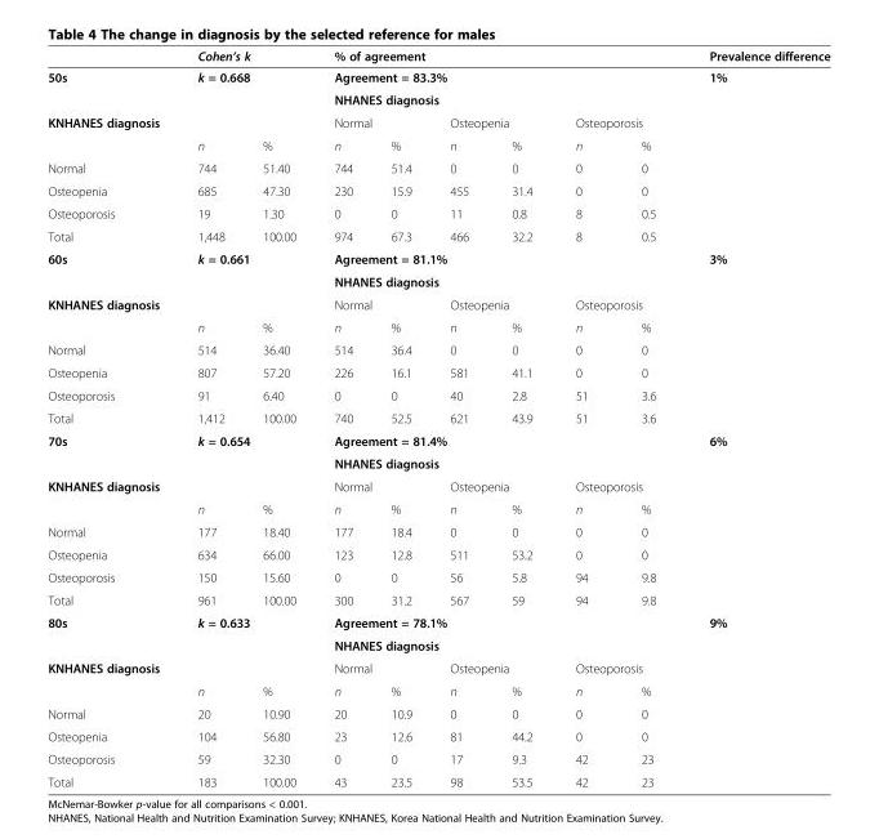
<table><thead><tr><td></td><td colspan="2">Cohen’s k</td><td colspan="6">% of agreement</td><td>Prevalence difference</td></tr></thead><tbody><tr><td rowspan="2">50s</td><td colspan="2">k = 0.668</td><td colspan="6">Agreement = 83.3%</td><td>1%</td></tr><tr><td></td><td></td><td colspan="6">NHANES diagnosis</td><td></td></tr><tr><td rowspan="2">KNHANES diagnosis</td><td></td><td></td><td colspan="2">Normal</td><td colspan="2">Osteopenia</td><td colspan="2">Osteoporosis</td><td></td></tr><tr><td>n</td><td>%</td><td>n</td><td>%</td><td>n</td><td>%</td><td>n</td><td>%</td><td></td></tr><tr><td>Normal</td><td>744</td><td>51.40</td><td>744</td><td>51.4</td><td>0</td><td>0</td><td>0</td><td>0</td><td></td></tr><tr><td>Osteopenia</td><td>685</td><td>47.30</td><td>230</td><td>15.9</td><td>455</td><td>31.4</td><td>0</td><td>0</td><td></td></tr><tr><td>Osteoporosis</td><td>19</td><td>1.30</td><td>0</td><td>0</td><td>11</td><td>0.8</td><td>8</td><td>0.5</td><td></td></tr><tr><td>Total</td><td>1,448</td><td>100.00</td><td>974</td><td>67.3</td><td>466</td><td>32.2</td><td>8</td><td>0.5</td><td></td></tr><tr><td rowspan="2">60s</td><td colspan="2">k = 0.661</td><td colspan="6">Agreement = 81.1%</td><td>3%</td></tr><tr><td></td><td></td><td colspan="6">NHANES diagnosis</td><td></td></tr><tr><td rowspan="2">KNHANES diagnosis</td><td></td><td></td><td colspan="2">Normal</td><td colspan="2">Osteopenia</td><td colspan="2">Osteoporosis</td><td></td></tr><tr><td>n</td><td>%</td><td>n</td><td>%</td><td>n</td><td>%</td><td>n</td><td>%</td><td></td></tr><tr><td>Normal</td><td>514</td><td>36.40</td><td>514</td><td>36.4</td><td>0</td><td>0</td><td>0</td><td>0</td><td></td></tr><tr><td>Osteopenia</td><td>807</td><td>57.20</td><td>226</td><td>16.1</td><td>581</td><td>41.1</td><td>0</td><td>0</td><td></td></tr><tr><td>Osteoporosis</td><td>91</td><td>6.40</td><td>0</td><td>0</td><td>40</td><td>2.8</td><td>51</td><td>3.6</td><td></td></tr><tr><td>Total</td><td>1,412</td><td>100.00</td><td>740</td><td>52.5</td><td>621</td><td>43.9</td><td>51</td><td>3.6</td><td></td></tr><tr><td rowspan="2">70s</td><td colspan="2">k = 0.654</td><td colspan="6">Agreement = 81.4%</td><td>6%</td></tr><tr><td></td><td></td><td colspan="6">NHANES diagnosis</td><td></td></tr><tr><td rowspan="2">KNHANES diagnosis</td><td></td><td></td><td colspan="2">Normal</td><td colspan="2">Osteopenia</td><td colspan="2">Osteoporosis</td><td></td></tr><tr><td>n</td><td>%</td><td>n</td><td>%</td><td>n</td><td>%</td><td>n</td><td>%</td><td></td></tr><tr><td>Normal</td><td>177</td><td>18.40</td><td>177</td><td>18.4</td><td>0</td><td>0</td><td>0</td><td>0</td><td></td></tr><tr><td>Osteopenia</td><td>634</td><td>66.00</td><td>123</td><td>12.8</td><td>511</td><td>53.2</td><td>0</td><td>0</td><td></td></tr><tr><td>Osteoporosis</td><td>150</td><td>15.60</td><td>0</td><td>0</td><td>56</td><td>5.8</td><td>94</td><td>9.8</td><td></td></tr><tr><td>Total</td><td>961</td><td>100.00</td><td>300</td><td>31.2</td><td>567</td><td>59</td><td>94</td><td>9.8</td><td></td></tr><tr><td rowspan="2">80s</td><td colspan="2">k = 0.633</td><td colspan="6">Agreement = 78.1%</td><td>9%</td></tr><tr><td></td><td></td><td colspan="6">NHANES diagnosis</td><td></td></tr><tr><td rowspan="2">KNHANES diagnosis</td><td></td><td></td><td colspan="2">Normal</td><td colspan="2">Osteopenia</td><td colspan="2">Osteoporosis</td><td></td></tr><tr><td>n</td><td>%</td><td>n</td><td>%</td><td>n</td><td>%</td><td>n</td><td>%</td><td></td></tr><tr><td>Normal</td><td>20</td><td>10.90</td><td>20</td><td>10.9</td><td>0</td><td>0</td><td>0</td><td>0</td><td></td></tr><tr><td>Osteopenia</td><td>104</td><td>56.80</td><td>23</td><td>12.6</td><td>81</td><td>44.2</td><td>0</td><td>0</td><td></td></tr><tr><td>Osteoporosis</td><td>59</td><td>32.30</td><td>0</td><td>0</td><td>17</td><td>9.3</td><td>42</td><td>23</td><td></td></tr><tr><td>Total</td><td>183</td><td>100.00</td><td>43</td><td>23.5</td><td>98</td><td>53.5</td><td>42</td><td>23</td><td></td></tr></tbody></table>